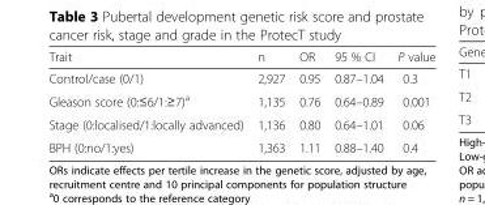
<table><thead><tr><td>Trait</td><td>n</td><td>OR</td><td>95 % CI</td><td>P value</td></tr></thead><tbody><tr><td>Control/case (0/1)</td><td>2,927</td><td>0.95</td><td>0.87–1.04</td><td>0.3</td></tr><tr><td>Gleason score (0:≤6/1:≥7)<sup>a</sup></td><td>1,135</td><td>0.76</td><td>0.64–0.89</td><td>0.001</td></tr><tr><td>Stage (0:localised/1:locally advanced)</td><td>1,136</td><td>0.80</td><td>0.64–1.01</td><td>0.06</td></tr><tr><td>BPH (0:no/1:yes)</td><td>1,363</td><td>1.11</td><td>0.88–1.40</td><td>0.4</td></tr></tbody></table>